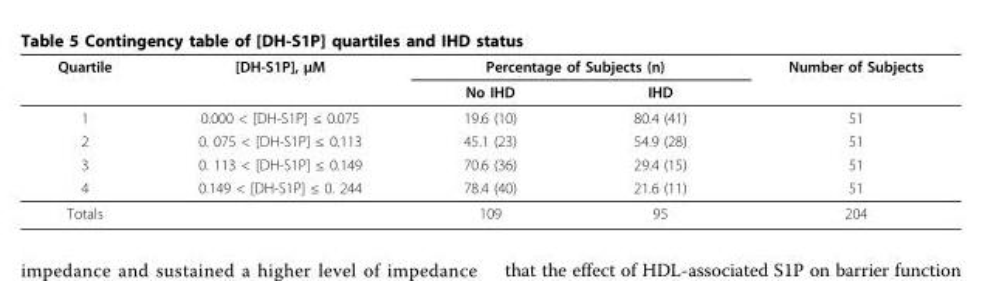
<table><thead><tr><td rowspan="2">Quartile</td><td rowspan="2">[DH-S1P], μM</td><td colspan="2">Percentage of Subjects (n)</td><td rowspan="2">Number of Subjects</td></tr><tr><td>No IHD</td><td>IHD</td></tr></thead><tbody><tr><td>1</td><td>0.000 &lt; [DH-S1P] ≤ 0.075</td><td>19.6 (10)</td><td>80.4 (41)</td><td>51</td></tr><tr><td>2</td><td>0. 075 &lt; [DH-S1P] ≤ 0.113</td><td>45.1 (23)</td><td>54.9 (28)</td><td>51</td></tr><tr><td>3</td><td>0. 113 &lt; [DH-S1P] ≤ 0.149</td><td>70.6 (36)</td><td>29.4 (15)</td><td>51</td></tr><tr><td>4</td><td>0.149 &lt; [DH-S1P] ≤ 0. 244</td><td>78.4 (40)</td><td>21.6 (11)</td><td>51</td></tr><tr><td>Totals</td><td></td><td>109</td><td>95</td><td>204</td></tr></tbody></table>